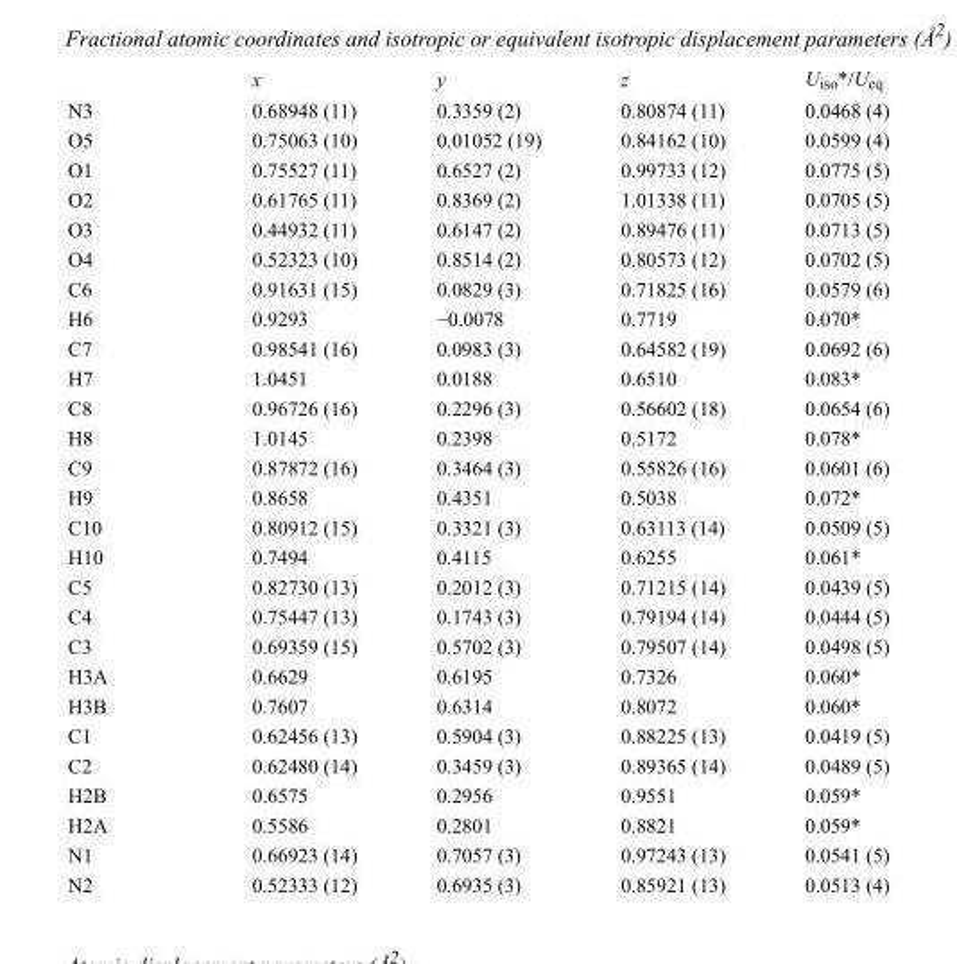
<table><thead><tr><td></td><td>x</td><td>y</td><td>z</td><td>U<sub>iso</sub>*/U<sub>eq</sub></td></tr></thead><tbody><tr><td>N3</td><td>0.68948 (11)</td><td>0.3359 (2)</td><td>0.80874 (11)</td><td>0.0468 (4)</td></tr><tr><td>O5</td><td>0.75063 (10)</td><td>0.01052 (19)</td><td>0.84162 (10)</td><td>0.0599 (4)</td></tr><tr><td>O1</td><td>0.75527 (11)</td><td>0.6527 (2)</td><td>0.99733 (12)</td><td>0.0775 (5)</td></tr><tr><td>O2</td><td>0.61765 (11)</td><td>0.8369 (2)</td><td>1.01338 (11)</td><td>0.0705 (5)</td></tr><tr><td>O3</td><td>0.44932 (11)</td><td>0.6147 (2)</td><td>0.89476 (11)</td><td>0.0713 (5)</td></tr><tr><td>O4</td><td>0.52323 (10)</td><td>0.8514 (2)</td><td>0.80573 (12)</td><td>0.0702 (5)</td></tr><tr><td>C6</td><td>0.91631 (15)</td><td>0.0829 (3)</td><td>0.71825 (16)</td><td>0.0579 (6)</td></tr><tr><td>H6</td><td>0.9293</td><td>−0.0078</td><td>0.7719</td><td>0.070*</td></tr><tr><td>C7</td><td>0.98541 (16)</td><td>0.0983 (3)</td><td>0.64582 (19)</td><td>0.0692 (6)</td></tr><tr><td>H7</td><td>1.0451</td><td>0.0188</td><td>0.6510</td><td>0.083*</td></tr><tr><td>C8</td><td>0.96726 (16)</td><td>0.2296 (3)</td><td>0.56602 (18)</td><td>0.0654 (6)</td></tr><tr><td>H8</td><td>1.0145</td><td>0.2398</td><td>0.5172</td><td>0.078*</td></tr><tr><td>C9</td><td>0.87872 (16)</td><td>0.3464 (3)</td><td>0.55826 (16)</td><td>0.0601 (6)</td></tr><tr><td>H9</td><td>0.8658</td><td>0.4351</td><td>0.5038</td><td>0.072*</td></tr><tr><td>C10</td><td>0.80912 (15)</td><td>0.3321 (3)</td><td>0.63113 (14)</td><td>0.0509 (5)</td></tr><tr><td>H10</td><td>0.7494</td><td>0.4115</td><td>0.6255</td><td>0.061*</td></tr><tr><td>C5</td><td>0.82730 (13)</td><td>0.2012 (3)</td><td>0.71215 (14)</td><td>0.0439 (5)</td></tr><tr><td>C4</td><td>0.75447 (13)</td><td>0.1743 (3)</td><td>0.79194 (14)</td><td>0.0444 (5)</td></tr><tr><td>C3</td><td>0.69359 (15)</td><td>0.5702 (3)</td><td>0.79507 (14)</td><td>0.0498 (5)</td></tr><tr><td>H3A</td><td>0.6629</td><td>0.6195</td><td>0.7326</td><td>0.060*</td></tr><tr><td>H3B</td><td>0.7607</td><td>0.6314</td><td>0.8072</td><td>0.060*</td></tr><tr><td>C1</td><td>0.62456 (13)</td><td>0.5904 (3)</td><td>0.88225 (13)</td><td>0.0419 (5)</td></tr><tr><td>C2</td><td>0.62480 (14)</td><td>0.3459 (3)</td><td>0.89365 (14)</td><td>0.0489 (5)</td></tr><tr><td>H2B</td><td>0.6575</td><td>0.2956</td><td>0.9551</td><td>0.059*</td></tr><tr><td>H2A</td><td>0.5586</td><td>0.2801</td><td>0.8821</td><td>0.059*</td></tr><tr><td>N1</td><td>0.66923 (14)</td><td>0.7057 (3)</td><td>0.97243 (13)</td><td>0.0541 (5)</td></tr><tr><td>N2</td><td>0.52333 (12)</td><td>0.6935 (3)</td><td>0.85921 (13)</td><td>0.0513 (4)</td></tr></tbody></table>